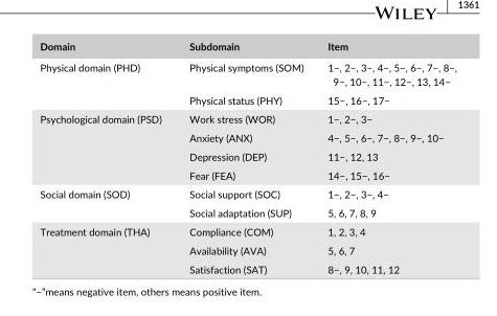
<table><thead><tr><td>Domain</td><td>Subdomain</td><td>Item</td></tr></thead><tbody><tr><td rowspan="2">Physical domain (PHD)</td><td>Physical symptoms (SOM)</td><td>1−, 2−, 3−, 4−, 5−, 6−, 7−, 8−, 9−, 10−, 11−, 12−, 13, 14−</td></tr><tr><td>Physical status (PHY)</td><td>15−, 16−, 17−</td></tr><tr><td rowspan="4">Psychological domain (PSD)</td><td>Work stress (WOR)</td><td>1−, 2−, 3−</td></tr><tr><td>Anxiety (ANX)</td><td>4−, 5−, 6−, 7−, 8−, 9−, 10−</td></tr><tr><td>Depression (DEP)</td><td>11−, 12, 13</td></tr><tr><td>Fear (FEA)</td><td>14−, 15−, 16−</td></tr><tr><td rowspan="2">Social domain (SOD)</td><td>Social support (SOC)</td><td>1−, 2−, 3−, 4−</td></tr><tr><td>Social adaptation (SUP)</td><td>5, 6, 7, 8, 9</td></tr><tr><td rowspan="3">Treatment domain (THA)</td><td>Compliance (COM)</td><td>1, 2, 3, 4</td></tr><tr><td>Availability (AVA)</td><td>5, 6, 7</td></tr><tr><td>Satisfaction (SAT)</td><td>8−, 9, 10, 11, 12</td></tr></tbody></table>